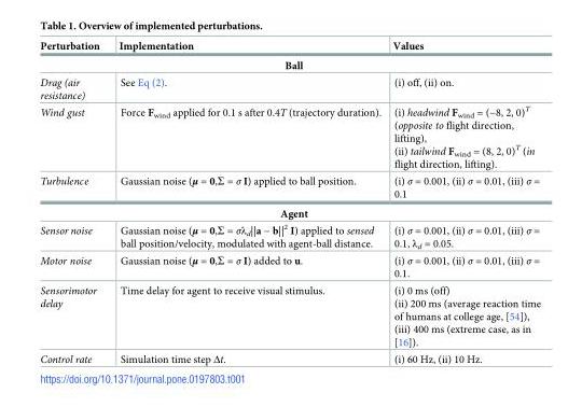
<table><thead><tr><td>Perturbation</td><td>Implementation</td><td>Values</td></tr></thead><tbody><tr><td colspan="3">Ball</td></tr><tr><td>Drag (air resistance)</td><td>See Eq (2).</td><td>(i) off, (ii) on.</td></tr><tr><td>Wind gust</td><td>Force F<sub>wind</sub> applied for 0.1 s after 0.4T (trajectory duration).</td><td>(i) headwind F<sub>wind</sub> = (−8, 2, 0)<sup>T</sup> (opposite to flight direction, lifting), (ii) tailwind F<sub>wind</sub> = (8, 2, 0)<sup>T</sup> (in flight direction, lifting).</td></tr><tr><td>Turbulence</td><td>Gaussian noise (μ = 0,Σ = σ I) applied to ball position.</td><td>(i) σ = 0.001, (ii) σ = 0.01, (iii) σ = 0.1</td></tr><tr><td colspan="3">Agent</td></tr><tr><td>Sensor noise</td><td>Gaussian noise (μ = 0,Σ = σλ<sub>d</sub>||a − b||<sup>2</sup> I) applied to sensed ball position/velocity, modulated with agent-ball distance.</td><td>(i) σ = 0.001, (ii) σ = 0.01, (iii) σ = 0.1, λ<sub>d</sub> = 0.05.</td></tr><tr><td>Motor noise</td><td>Gaussian noise (μ = 0,Σ = σ I) added to u.</td><td>(i) σ = 0.001, (ii) σ = 0.01, (iii) σ = 0.1.</td></tr><tr><td>Sensorimotor delay</td><td>Time delay for agent to receive visual stimulus.</td><td>(i) 0 ms (off) (ii) 200 ms (average reaction time of humans at college age, [54]), (iii) 400 ms (extreme case, as in [16]).</td></tr><tr><td>Control rate</td><td>Simulation time step Δt.</td><td>(i) 60 Hz, (ii) 10 Hz.</td></tr></tbody></table>